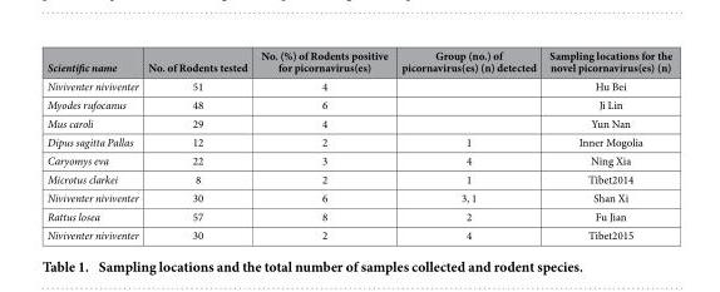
<table><thead><tr><td>Scientific name</td><td>No. of Rodents tested</td><td>No. (%) of Rodents positive for picornavirus(es)</td><td>Group (no.) of picornavirus(es) (n) detected</td><td>Sampling locations for the novel picornavirus(es) (n)</td></tr></thead><tbody><tr><td>Niviventer niviventer</td><td>51</td><td>4</td><td></td><td>Hu Bei</td></tr><tr><td>Myodes rufocanus</td><td>48</td><td>6</td><td></td><td>Ji Lin</td></tr><tr><td>Mus caroli</td><td>29</td><td>4</td><td></td><td>Yun Nan</td></tr><tr><td>Dipus sagitta Pallas</td><td>12</td><td>2</td><td>1</td><td>Inner Mogolia</td></tr><tr><td>Caryomys eva</td><td>22</td><td>3</td><td>4</td><td>Ning Xia</td></tr><tr><td>Microtus clarkei</td><td>8</td><td>2</td><td>1</td><td>Tibet2014</td></tr><tr><td>Niviventer niviventer</td><td>30</td><td>6</td><td>3, 1</td><td>Shan Xi</td></tr><tr><td>Rattus losea</td><td>57</td><td>8</td><td>2</td><td>Fu Jian</td></tr><tr><td>Niviventer niviventer</td><td>30</td><td>2</td><td>4</td><td>Tibet2015</td></tr></tbody></table>